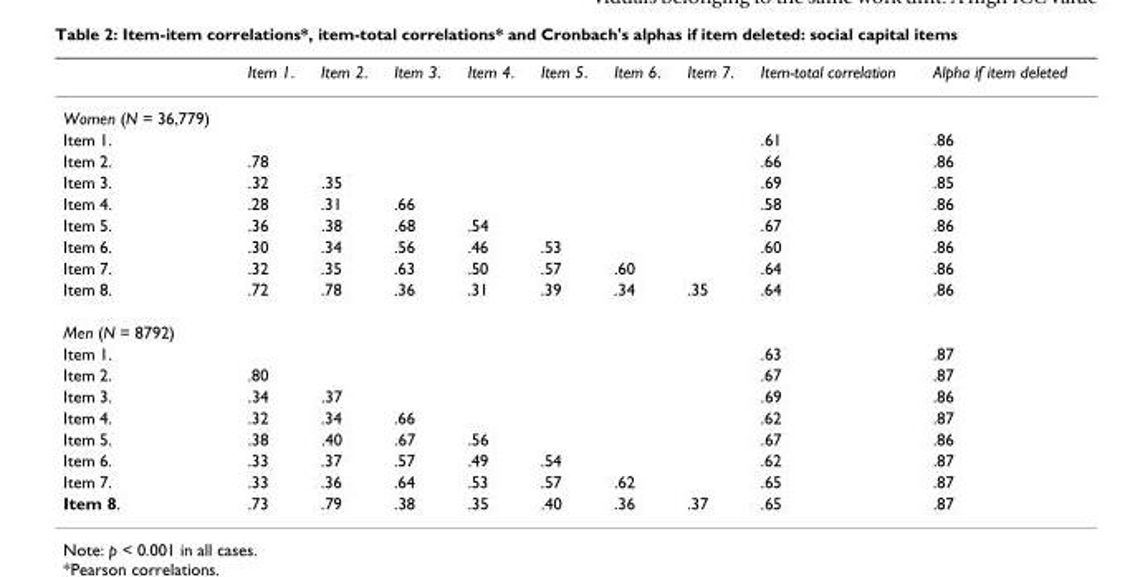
<table><thead><tr><td></td><td>Item 1.</td><td>Item 2.</td><td>Item 3.</td><td>Item 4.</td><td>Item 5.</td><td>Item 6.</td><td>Item 7.</td><td>Item-total correlation</td><td>Alpha if item deleted</td></tr></thead><tbody><tr><td colspan="10">Women (N = 36,779)</td></tr><tr><td>Item 1.</td><td></td><td></td><td></td><td></td><td></td><td></td><td></td><td>.61</td><td>.86</td></tr><tr><td>Item 2.</td><td>.78</td><td></td><td></td><td></td><td></td><td></td><td></td><td>.66</td><td>.86</td></tr><tr><td>Item 3.</td><td>.32</td><td>.35</td><td></td><td></td><td></td><td></td><td></td><td>.69</td><td>.85</td></tr><tr><td>Item 4.</td><td>.28</td><td>.31</td><td>.66</td><td></td><td></td><td></td><td></td><td>.58</td><td>.86</td></tr><tr><td>Item 5.</td><td>.36</td><td>.38</td><td>.68</td><td>.54</td><td></td><td></td><td></td><td>.67</td><td>.86</td></tr><tr><td>Item 6.</td><td>.30</td><td>.34</td><td>.56</td><td>.46</td><td>.53</td><td></td><td></td><td>.60</td><td>.86</td></tr><tr><td>Item 7.</td><td>.32</td><td>.35</td><td>.63</td><td>.50</td><td>.57</td><td>.60</td><td></td><td>.64</td><td>.86</td></tr><tr><td>Item 8.</td><td>.72</td><td>.78</td><td>.36</td><td>.31</td><td>.39</td><td>.34</td><td>.35</td><td>.64</td><td>.86</td></tr><tr><td colspan="10">Men (N = 8792)</td></tr><tr><td>Item 1.</td><td></td><td></td><td></td><td></td><td></td><td></td><td></td><td>.63</td><td>.87</td></tr><tr><td>Item 2.</td><td>.80</td><td></td><td></td><td></td><td></td><td></td><td></td><td>.67</td><td>.87</td></tr><tr><td>Item 3.</td><td>.34</td><td>.37</td><td></td><td></td><td></td><td></td><td></td><td>.69</td><td>.86</td></tr><tr><td>Item 4.</td><td>.32</td><td>.34</td><td>.66</td><td></td><td></td><td></td><td></td><td>.62</td><td>.87</td></tr><tr><td>Item 5.</td><td>.38</td><td>.40</td><td>.67</td><td>.56</td><td></td><td></td><td></td><td>.67</td><td>.86</td></tr><tr><td>Item 6.</td><td>.33</td><td>.37</td><td>.57</td><td>.49</td><td>.54</td><td></td><td></td><td>.62</td><td>.87</td></tr><tr><td>Item 7.</td><td>.33</td><td>.36</td><td>.64</td><td>.53</td><td>.57</td><td>.62</td><td></td><td>.65</td><td>.87</td></tr><tr><td>Item 8.</td><td>.73</td><td>.79</td><td>.38</td><td>.35</td><td>.40</td><td>.36</td><td>.37</td><td>.65</td><td>.87</td></tr></tbody></table>